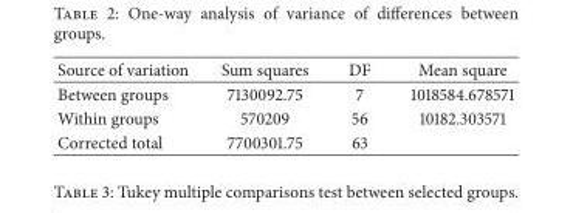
<table><thead><tr><td>Source of variation</td><td>Sum squares</td><td>DF</td><td>Mean square</td></tr></thead><tbody><tr><td>Between groups</td><td>7130092.75</td><td>7</td><td>1018584.678571</td></tr><tr><td>Within groups</td><td>570209</td><td>56</td><td>10182.303571</td></tr><tr><td>Corrected total</td><td>7700301.75</td><td>63</td><td></td></tr></tbody></table>